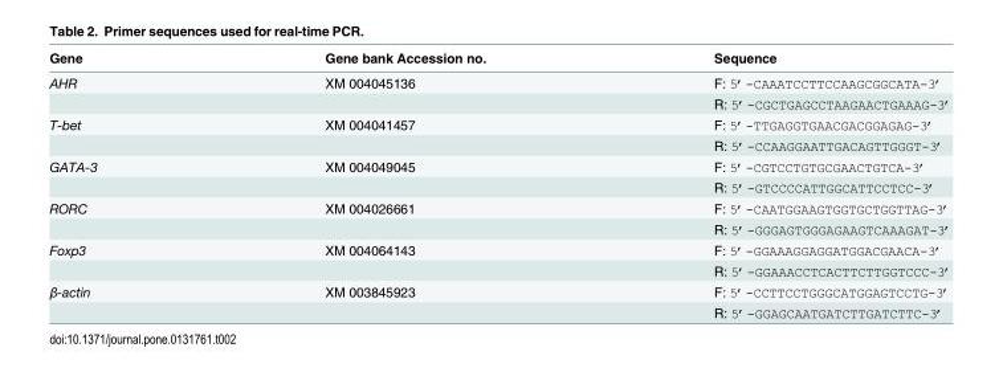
<table><thead><tr><td>Gene</td><td>Gene bank Accession no.</td><td>Sequence</td></tr></thead><tbody><tr><td rowspan="2">AHR</td><td>XM 004045136</td><td>F: 5’-CAAATCCTTCCAAGCGGCATA-3’</td></tr><tr><td></td><td>R: 5’-CGCTGAGCCTAAGAACTGAAAG-3’</td></tr><tr><td rowspan="2">T-bet</td><td>XM 004041457</td><td>F: 5’-TTGAGGTGAACGACGGAGAG-3’</td></tr><tr><td></td><td>R: 5’-CCAAGGAATTGACAGTTGGGT-3’</td></tr><tr><td rowspan="2">GATA-3</td><td>XM 004049045</td><td>F: 5’-CGTCCTGTGCGAACTGTCA-3’</td></tr><tr><td></td><td>R: 5’-GTCCCCATTGGCATTCCTCC-3’</td></tr><tr><td rowspan="2">RORC</td><td>XM 004026661</td><td>F: 5’-CAATGGAAGTGGTGCTGGTTAG-3’</td></tr><tr><td></td><td>R: 5’-GGGAGTGGGAGAAGTCAAAGAT-3’</td></tr><tr><td rowspan="2">Foxp3</td><td>XM 004064143</td><td>F: 5’-GGAAAGGAGGATGGACGAACA-3’</td></tr><tr><td></td><td>R: 5’-GGAAACCTCACTTCTTGGTCCC-3’</td></tr><tr><td rowspan="2">β-actin</td><td>XM 003845923</td><td>F: 5’-CCTTCCTGGGCATGGAGTCCTG-3’</td></tr><tr><td></td><td>R: 5’-GGAGCAATGATCTTGATCTTC-3’</td></tr></tbody></table>